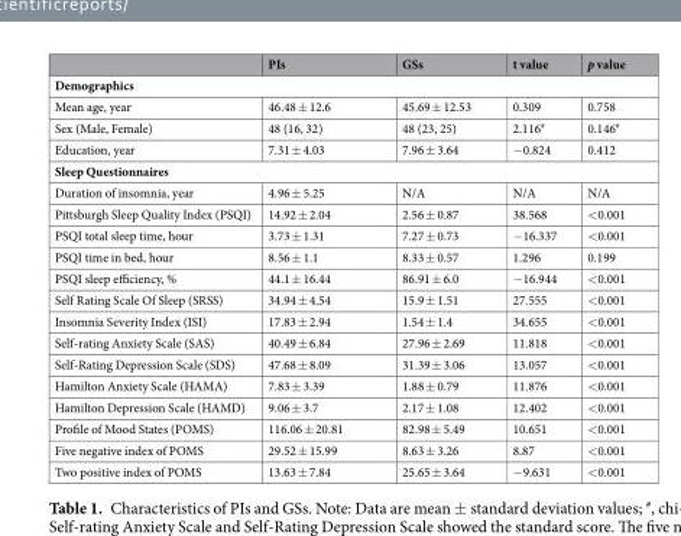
<table><thead><tr><td></td><td>PIs</td><td>GSs</td><td>t value</td><td>p value</td></tr></thead><tbody><tr><td colspan="5">Demographics</td></tr><tr><td>Mean age, year</td><td>46.48 ± 12.6</td><td>45.69 ± 12.53</td><td>0.309</td><td>0.758</td></tr><tr><td>Sex (Male, Female)</td><td>48 (16, 32)</td><td>48 (23, 25)</td><td>2.116<sup>#</sup></td><td>0.146<sup>#</sup></td></tr><tr><td>Education, year</td><td>7.31 ± 4.03</td><td>7.96 ± 3.64</td><td>−0.824</td><td>0.412</td></tr><tr><td colspan="5">Sleep Questionnaires</td></tr><tr><td>Duration of insomnia, year</td><td>4.96 ± 5.25</td><td>N/A</td><td>N/A</td><td>N/A</td></tr><tr><td>Pittsburgh Sleep Quality Index (PSQI)</td><td>14.92 ± 2.04</td><td>2.56 ± 0.87</td><td>38.568</td><td>&lt;0.001</td></tr><tr><td>PSQI total sleep time, hour</td><td>3.73 ± 1.31</td><td>7.27 ± 0.73</td><td>−16.337</td><td>&lt;0.001</td></tr><tr><td>PSQI time in bed, hour</td><td>8.56 ± 1.1</td><td>8.33 ± 0.57</td><td>1.296</td><td>0.199</td></tr><tr><td>PSQI sleep efficiency, %</td><td>44.1 ± 16.44</td><td>86.91 ± 6.0</td><td>−16.944</td><td>&lt;0.001</td></tr><tr><td>Self Rating Scale Of Sleep (SRSS)</td><td>34.94 ± 4.54</td><td>15.9 ± 1.51</td><td>27.555</td><td>&lt;0.001</td></tr><tr><td>Insomnia Severity Index (ISI)</td><td>17.83 ± 2.94</td><td>1.54 ± 1.4</td><td>34.655</td><td>&lt;0.001</td></tr><tr><td>Self-rating Anxiety Scale (SAS)</td><td>40.49 ± 6.84</td><td>27.96 ± 2.69</td><td>11.818</td><td>&lt;0.001</td></tr><tr><td>Self-Rating Depression Scale (SDS)</td><td>47.68 ± 8.09</td><td>31.39 ± 3.06</td><td>13.057</td><td>&lt;0.001</td></tr><tr><td>Hamilton Anxiety Scale (HAMA)</td><td>7.83 ± 3.39</td><td>1.88 ± 0.79</td><td>11.876</td><td>&lt;0.001</td></tr><tr><td>Hamilton Depression Scale (HAMD)</td><td>9.06 ± 3.7</td><td>2.17 ± 1.08</td><td>12.402</td><td>&lt;0.001</td></tr><tr><td>Profile of Mood States (POMS)</td><td>116.06 ± 20.81</td><td>82.98 ± 5.49</td><td>10.651</td><td>&lt;0.001</td></tr><tr><td>Five negative index of POMS</td><td>29.52 ± 15.99</td><td>8.63 ± 3.26</td><td>8.87</td><td>&lt;0.001</td></tr><tr><td>Two positive index of POMS</td><td>13.63 ± 7.84</td><td>25.65 ± 3.64</td><td>−9.631</td><td>&lt;0.001</td></tr></tbody></table>